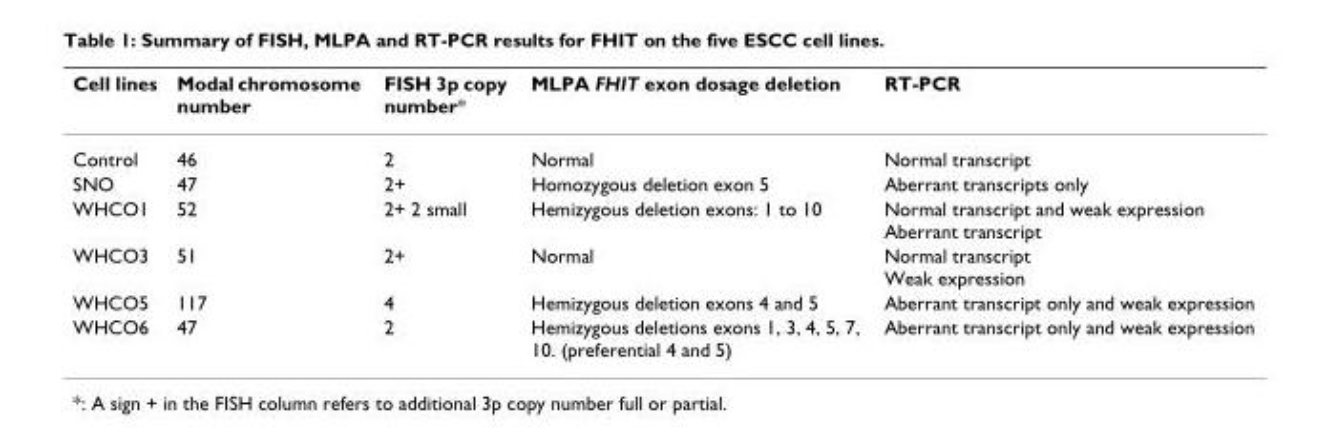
<table><thead><tr><td>Cell lines</td><td>Modal chromosome number</td><td>FISH 3p copy number*</td><td>MLPA FHIT exon dosage deletion</td><td>RT-PCR</td></tr></thead><tbody><tr><td>Control</td><td>46</td><td>2</td><td>Normal</td><td>Normal transcript</td></tr><tr><td>SNO</td><td>47</td><td>2+</td><td>Homozygous deletion exon 5</td><td>Aberrant transcripts only</td></tr><tr><td>WHCO1</td><td>52</td><td>2+ 2 small</td><td>Hemizygous deletion exons: 1 to 10</td><td>Normal transcript and weak expression Aberrant transcript</td></tr><tr><td>WHCO3</td><td>51</td><td>2+</td><td>Normal</td><td>Normal transcript Weak expression</td></tr><tr><td>WHCO5</td><td>117</td><td>4</td><td>Hemizygous deletion exons 4 and 5</td><td>Aberrant transcript only and weak expression</td></tr><tr><td>WHCO6</td><td>47</td><td>2</td><td>Hemizygous deletions exons 1, 3, 4, 5, 7, 10. (preferential 4 and 5)</td><td>Aberrant transcript only and weak expression</td></tr></tbody></table>